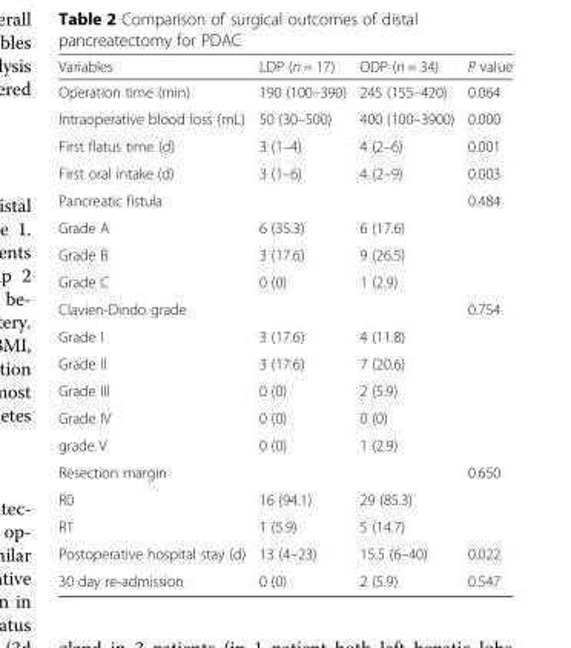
<table><thead><tr><td>Variables</td><td>LDP (n = 17)</td><td>ODP (n = 34)</td><td>P value</td></tr></thead><tbody><tr><td>Operation time (min)</td><td>190 (100–390)</td><td>245 (155–420)</td><td>0.064</td></tr><tr><td>Intraoperative blood loss (mL)</td><td>50 (30–500)</td><td>400 (100–3900)</td><td>0.000</td></tr><tr><td>First flatus time (d)</td><td>3 (1–4)</td><td>4 (2–6)</td><td>0.001</td></tr><tr><td>First oral intake (d)</td><td>3 (1–6)</td><td>4 (2–9)</td><td>0.003</td></tr><tr><td>Pancreatic fistula</td><td></td><td></td><td>0.484</td></tr><tr><td>Grade A</td><td>6 (35.3)</td><td>6 (17.6)</td><td></td></tr><tr><td>Grade B</td><td>3 (17.6)</td><td>9 (26.5)</td><td></td></tr><tr><td>Grade C</td><td>0 (0)</td><td>1 (2.9)</td><td></td></tr><tr><td>Clavien-Dindo grade</td><td></td><td></td><td>0.754</td></tr><tr><td>Grade I</td><td>3 (17.6)</td><td>4 (11.8)</td><td></td></tr><tr><td>Grade II</td><td>3 (17.6)</td><td>7 (20.6)</td><td></td></tr><tr><td>Grade III</td><td>0 (0)</td><td>2 (5.9)</td><td></td></tr><tr><td>Grade IV</td><td>0 (0)</td><td>0 (0)</td><td></td></tr><tr><td>grade V</td><td>0 (0)</td><td>1 (2.9)</td><td></td></tr><tr><td>Resection margin</td><td></td><td></td><td>0.650</td></tr><tr><td>R0</td><td>16 (94.1)</td><td>29 (85.3)</td><td></td></tr><tr><td>R1</td><td>1 (5.9)</td><td>5 (14.7)</td><td></td></tr><tr><td>Postoperative hospital stay (d)</td><td>13 (4–23)</td><td>15.5 (6–40)</td><td>0.022</td></tr><tr><td>30 day re-admission</td><td>0 (0)</td><td>2 (5.9)</td><td>0.547</td></tr></tbody></table>